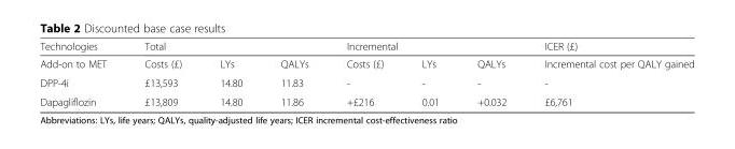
<table><thead><tr><td rowspan="2">Technologies Add-on to MET</td><td colspan="3">Total</td><td colspan="3">Incremental</td><td rowspan="2">ICER (£) Incremental cost per QALY gained</td></tr><tr><td>Costs (£)</td><td>LYs</td><td>QALYs</td><td>Costs (£)</td><td>LYs</td><td>QALYs</td></tr></thead><tbody><tr><td>DPP-4i</td><td>£13,593</td><td>14.80</td><td>11.83</td><td>-</td><td>-</td><td>-</td><td>-</td></tr><tr><td>Dapagliflozin</td><td>£13,809</td><td>14.80</td><td>11.86</td><td>+£216</td><td>0.01</td><td>+0.032</td><td>£6,761</td></tr></tbody></table>